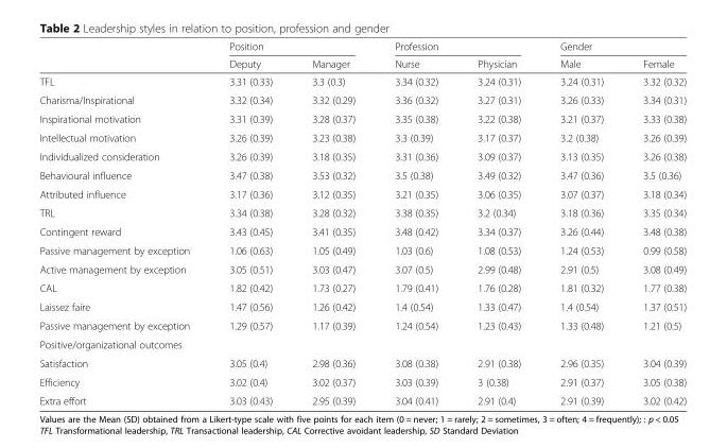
<table><thead><tr><td rowspan="2"></td><td colspan="2">Position</td><td colspan="2">Profession</td><td colspan="2">Gender</td></tr><tr><td>Deputy</td><td>Manager</td><td>Nurse</td><td>Physician</td><td>Male</td><td>Female</td></tr></thead><tbody><tr><td>TFL</td><td>3.31 (0.33)</td><td>3.3 (0.3)</td><td>3.34 (0.32)</td><td>3.24 (0.31)</td><td>3.24 (0.31)</td><td>3.32 (0.32)</td></tr><tr><td>Charisma/Inspirational</td><td>3.32 (0.34)</td><td>3.32 (0.29)</td><td>3.36 (0.32)</td><td>3.27 (0.31)</td><td>3.26 (0.33)</td><td>3.34 (0.31)</td></tr><tr><td>Inspirational motivation</td><td>3.31 (0.39)</td><td>3.28 (0.37)</td><td>3.35 (0.38)</td><td>3.22 (0.38)</td><td>3.21 (0.37)</td><td>3.33 (0.38)</td></tr><tr><td>Intellectual motivation</td><td>3.26 (0.39)</td><td>3.23 (0.38)</td><td>3.3 (0.39)</td><td>3.17 (0.37)</td><td>3.2 (0.38)</td><td>3.26 (0.39)</td></tr><tr><td>Individualized consideration</td><td>3.26 (0.39)</td><td>3.18 (0.35)</td><td>3.31 (0.36)</td><td>3.09 (0.37)</td><td>3.13 (0.35)</td><td>3.26 (0.38)</td></tr><tr><td>Behavioural influence</td><td>3.47 (0.38)</td><td>3.53 (0.32)</td><td>3.5 (0.38)</td><td>3.49 (0.32)</td><td>3.47 (0.36)</td><td>3.5 (0.36)</td></tr><tr><td>Attributed influence</td><td>3.17 (0.36)</td><td>3.12 (0.35)</td><td>3.21 (0.35)</td><td>3.06 (0.35)</td><td>3.07 (0.37)</td><td>3.18 (0.34)</td></tr><tr><td>TRL</td><td>3.34 (0.38)</td><td>3.28 (0.32)</td><td>3.38 (0.35)</td><td>3.2 (0.34)</td><td>3.18 (0.36)</td><td>3.35 (0.34)</td></tr><tr><td>Contingent reward</td><td>3.43 (0.45)</td><td>3.41 (0.35)</td><td>3.48 (0.42)</td><td>3.34 (0.37)</td><td>3.26 (0.44)</td><td>3.48 (0.38)</td></tr><tr><td>Passive management by exception</td><td>1.06 (0.63)</td><td>1.05 (0.49)</td><td>1.03 (0.6)</td><td>1.08 (0.53)</td><td>1.24 (0.53)</td><td>0.99 (0.58)</td></tr><tr><td>Active management by exception</td><td>3.05 (0.51)</td><td>3.03 (0.47)</td><td>3.07 (0.5)</td><td>2.99 (0.48)</td><td>2.91 (0.5)</td><td>3.08 (0.49)</td></tr><tr><td>CAL</td><td>1.82 (0.42)</td><td>1.73 (0.27)</td><td>1.79 (0.41)</td><td>1.76 (0.28)</td><td>1.81 (0.32)</td><td>1.77 (0.38)</td></tr><tr><td>Laissez faire</td><td>1.47 (0.56)</td><td>1.26 (0.42)</td><td>1.4 (0.54)</td><td>1.33 (0.47)</td><td>1.4 (0.54)</td><td>1.37 (0.51)</td></tr><tr><td>Passive management by exception</td><td>1.29 (0.57)</td><td>1.17 (0.39)</td><td>1.24 (0.54)</td><td>1.23 (0.43)</td><td>1.33 (0.48)</td><td>1.21 (0.5)</td></tr><tr><td colspan="7">Positive/organizational outcomes</td></tr><tr><td>Satisfaction</td><td>3.05 (0.4)</td><td>2.98 (0.36)</td><td>3.08 (0.38)</td><td>2.91 (0.38)</td><td>2.96 (0.35)</td><td>3.04 (0.39)</td></tr><tr><td>Efficiency</td><td>3.02 (0.4)</td><td>3.02 (0.37)</td><td>3.03 (0.39)</td><td>3 (0.38)</td><td>2.91 (0.37)</td><td>3.05 (0.38)</td></tr><tr><td>Extra effort</td><td>3.03 (0.43)</td><td>2.95 (0.39)</td><td>3.04 (0.41)</td><td>2.91 (0.4)</td><td>2.91 (0.39)</td><td>3.02 (0.42)</td></tr></tbody></table>